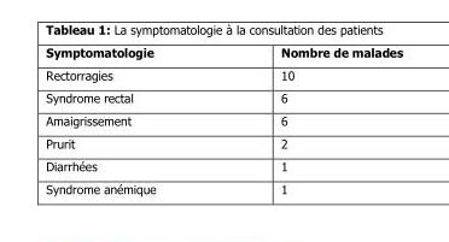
<table><thead><tr><td>Symptomatologie</td><td>Nombre de malades</td></tr></thead><tbody><tr><td>Rectorragies</td><td>10</td></tr><tr><td>Syndrome rectal</td><td>6</td></tr><tr><td>Amaigrissement</td><td>6</td></tr><tr><td>Prurit</td><td>2</td></tr><tr><td>Diarrhées</td><td>1</td></tr><tr><td>Syndrome anémique</td><td>1</td></tr></tbody></table>